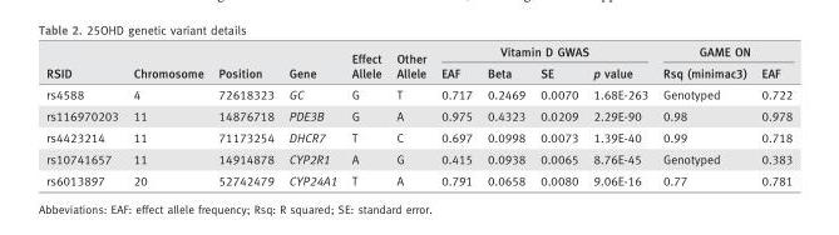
<table><thead><tr><td rowspan="2">RSID</td><td rowspan="2">Chromosome</td><td rowspan="2">Position</td><td rowspan="2">Gene</td><td rowspan="2">Effect Allele</td><td rowspan="2">Other Allele</td><td colspan="4">Vitamin D GWAS</td><td colspan="2">GAME ON</td></tr><tr><td>EAF</td><td>Beta</td><td>SE</td><td>p value</td><td>Rsq (minimac3)</td><td>EAF</td></tr></thead><tbody><tr><td>rs4588</td><td>4</td><td>72618323</td><td>GC</td><td>G</td><td>T</td><td>0.717</td><td>0.2469</td><td>0.0070</td><td>1.68E-263</td><td>Genotyped</td><td>0.722</td></tr><tr><td>rs116970203</td><td>11</td><td>14876718</td><td>PDE3B</td><td>G</td><td>A</td><td>0.975</td><td>0.4323</td><td>0.0209</td><td>2.29E-90</td><td>0.98</td><td>0.978</td></tr><tr><td>rs4423214</td><td>11</td><td>71173254</td><td>DHCR7</td><td>T</td><td>C</td><td>0.697</td><td>0.0998</td><td>0.0073</td><td>1.39E-40</td><td>0.99</td><td>0.718</td></tr><tr><td>rs10741657</td><td>11</td><td>14914878</td><td>CYP2R1</td><td>A</td><td>G</td><td>0.415</td><td>0.0938</td><td>0.0065</td><td>8.76E-45</td><td>Genotyped</td><td>0.383</td></tr><tr><td>rs6013897</td><td>20</td><td>52742479</td><td>CYP24A1</td><td>T</td><td>A</td><td>0.791</td><td>0.0658</td><td>0.0080</td><td>9.06E-16</td><td>0.77</td><td>0.781</td></tr></tbody></table>